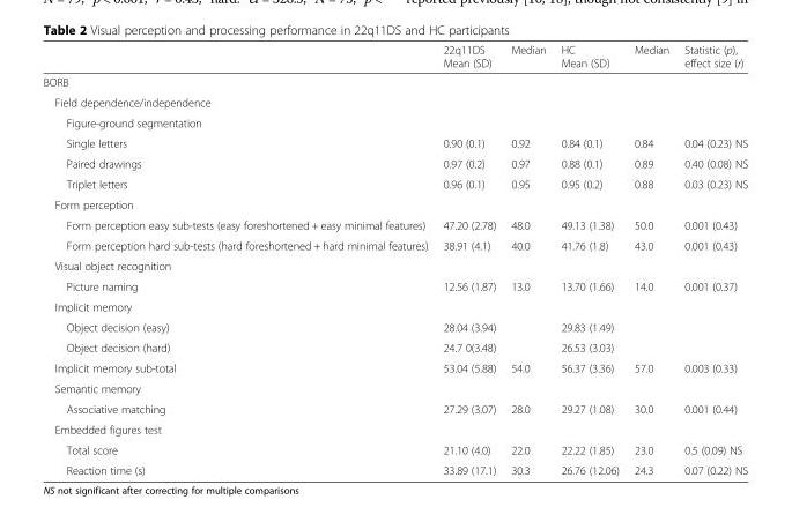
<table><thead><tr><td></td><td>22q11DS Mean (SD)</td><td>Median</td><td>HC Mean (SD)</td><td>Median</td><td>Statistic (p), effect size (r)</td></tr></thead><tbody><tr><td colspan="6">BORB</td></tr><tr><td colspan="6">Field dependence/independence</td></tr><tr><td colspan="6">Figure-ground segmentation</td></tr><tr><td>Single letters</td><td>0.90 (0.1)</td><td>0.92</td><td>0.84 (0.1)</td><td>0.84</td><td>0.04 (0.23) NS</td></tr><tr><td>Paired drawings</td><td>0.97 (0.2)</td><td>0.97</td><td>0.88 (0.1)</td><td>0.89</td><td>0.40 (0.08) NS</td></tr><tr><td>Triplet letters</td><td>0.96 (0.1)</td><td>0.95</td><td>0.95 (0.2)</td><td>0.88</td><td>0.03 (0.23) NS</td></tr><tr><td colspan="6">Form perception</td></tr><tr><td>Form perception easy sub-tests (easy foreshortened + easy minimal features)</td><td>47.20 (2.78)</td><td>48.0</td><td>49.13 (1.38)</td><td>50.0</td><td>0.001 (0.43)</td></tr><tr><td>Form perception hard sub-tests (hard foreshortened + hard minimal features)</td><td>38.91 (4.1)</td><td>40.0</td><td>41.76 (1.8)</td><td>43.0</td><td>0.001 (0.43)</td></tr><tr><td colspan="6">Visual object recognition</td></tr><tr><td>Picture naming</td><td>12.56 (1.87)</td><td>13.0</td><td>13.70 (1.66)</td><td>14.0</td><td>0.001 (0.37)</td></tr><tr><td colspan="6">Implicit memory</td></tr><tr><td>Object decision (easy)</td><td>28.04 (3.94)</td><td></td><td>29.83 (1.49)</td><td></td><td></td></tr><tr><td>Object decision (hard)</td><td>24.7 0(3.48)</td><td></td><td>26.53 (3.03)</td><td></td><td></td></tr><tr><td>Implicit memory sub-total</td><td>53.04 (5.88)</td><td>54.0</td><td>56.37 (3.36)</td><td>57.0</td><td>0.003 (0.33)</td></tr><tr><td colspan="6">Semantic memory</td></tr><tr><td>Associative matching</td><td>27.29 (3.07)</td><td>28.0</td><td>29.27 (1.08)</td><td>30.0</td><td>0.001 (0.44)</td></tr><tr><td colspan="6">Embedded figures test</td></tr><tr><td>Total score</td><td>21.10 (4.0)</td><td>22.0</td><td>22.22 (1.85)</td><td>23.0</td><td>0.5 (0.09) NS</td></tr><tr><td>Reaction time (s)</td><td>33.89 (17.1)</td><td>30.3</td><td>26.76 (12.06)</td><td>24.3</td><td>0.07 (0.22) NS</td></tr></tbody></table>